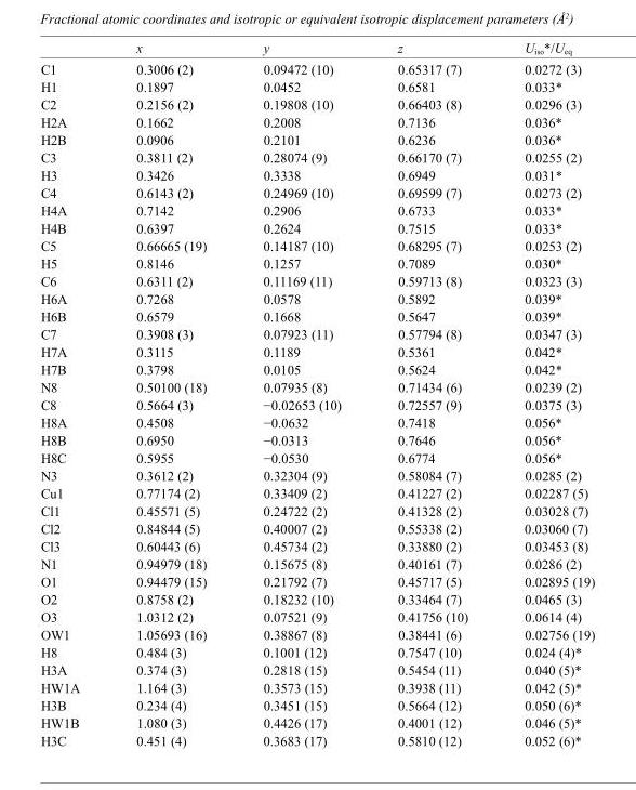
<table><thead><tr><td></td><td>x</td><td>y</td><td>z</td><td>U<sub>iso</sub>*/U<sub>eq</sub></td></tr></thead><tbody><tr><td>C1</td><td>0.3006 (2)</td><td>0.09472 (10)</td><td>0.65317 (7)</td><td>0.0272 (3)</td></tr><tr><td>H1</td><td>0.1897</td><td>0.0452</td><td>0.6581</td><td>0.033*</td></tr><tr><td>C2</td><td>0.2156 (2)</td><td>0.19808 (10)</td><td>0.66403 (8)</td><td>0.0296 (3)</td></tr><tr><td>H2A</td><td>0.1662</td><td>0.2008</td><td>0.7136</td><td>0.036*</td></tr><tr><td>H2B</td><td>0.0906</td><td>0.2101</td><td>0.6236</td><td>0.036*</td></tr><tr><td>C3</td><td>0.3811 (2)</td><td>0.28074 (9)</td><td>0.66170 (7)</td><td>0.0255 (2)</td></tr><tr><td>H3</td><td>0.3426</td><td>0.3338</td><td>0.6949</td><td>0.031*</td></tr><tr><td>C4</td><td>0.6143 (2)</td><td>0.24969 (10)</td><td>0.69599 (7)</td><td>0.0273 (2)</td></tr><tr><td>H4A</td><td>0.7142</td><td>0.2906</td><td>0.6733</td><td>0.033*</td></tr><tr><td>H4B</td><td>0.6397</td><td>0.2624</td><td>0.7515</td><td>0.033*</td></tr><tr><td>C5</td><td>0.66665 (19)</td><td>0.14187 (10)</td><td>0.68295 (7)</td><td>0.0253 (2)</td></tr><tr><td>H5</td><td>0.8146</td><td>0.1257</td><td>0.7089</td><td>0.030*</td></tr><tr><td>C6</td><td>0.6311 (2)</td><td>0.11169 (11)</td><td>0.59713 (8)</td><td>0.0323 (3)</td></tr><tr><td>H6A</td><td>0.7268</td><td>0.0578</td><td>0.5892</td><td>0.039*</td></tr><tr><td>H6B</td><td>0.6579</td><td>0.1668</td><td>0.5647</td><td>0.039*</td></tr><tr><td>C7</td><td>0.3908 (3)</td><td>0.07923 (11)</td><td>0.57794 (8)</td><td>0.0347 (3)</td></tr><tr><td>H7A</td><td>0.3115</td><td>0.1189</td><td>0.5361</td><td>0.042*</td></tr><tr><td>H7B</td><td>0.3798</td><td>0.0105</td><td>0.5624</td><td>0.042*</td></tr><tr><td>N8</td><td>0.50100 (18)</td><td>0.07935 (8)</td><td>0.71434 (6)</td><td>0.0239 (2)</td></tr><tr><td>C8</td><td>0.5664 (3)</td><td>−0.02653 (10)</td><td>0.72557 (9)</td><td>0.0375 (3)</td></tr><tr><td>H8A</td><td>0.4508</td><td>−0.0632</td><td>0.7418</td><td>0.056*</td></tr><tr><td>H8B</td><td>0.6950</td><td>−0.0313</td><td>0.7646</td><td>0.056*</td></tr><tr><td>H8C</td><td>0.5955</td><td>−0.0530</td><td>0.6774</td><td>0.056*</td></tr><tr><td>N3</td><td>0.3612 (2)</td><td>0.32304 (9)</td><td>0.58084 (7)</td><td>0.0285 (2)</td></tr><tr><td>Cu1</td><td>0.77174 (2)</td><td>0.33409 (2)</td><td>0.41227 (2)</td><td>0.02287 (5)</td></tr><tr><td>Cl1</td><td>0.45571 (5)</td><td>0.24722 (2)</td><td>0.41328 (2)</td><td>0.03028 (7)</td></tr><tr><td>Cl2</td><td>0.84844 (5)</td><td>0.40007 (2)</td><td>0.55338 (2)</td><td>0.03060 (7)</td></tr><tr><td>Cl3</td><td>0.60443 (6)</td><td>0.45734 (2)</td><td>0.33880 (2)</td><td>0.03453 (8)</td></tr><tr><td>N1</td><td>0.94979 (18)</td><td>0.15675 (8)</td><td>0.40161 (7)</td><td>0.0286 (2)</td></tr><tr><td>O1</td><td>0.94479 (15)</td><td>0.21792 (7)</td><td>0.45717 (5)</td><td>0.02895 (19)</td></tr><tr><td>O2</td><td>0.8758 (2)</td><td>0.18232 (10)</td><td>0.33464 (7)</td><td>0.0465 (3)</td></tr><tr><td>O3</td><td>1.0312 (2)</td><td>0.07521 (9)</td><td>0.41756 (10)</td><td>0.0614 (4)</td></tr><tr><td>OW1</td><td>1.05693 (16)</td><td>0.38867 (8)</td><td>0.38441 (6)</td><td>0.02756 (19)</td></tr><tr><td>H8</td><td>0.484 (3)</td><td>0.1001 (12)</td><td>0.7547 (10)</td><td>0.024 (4)*</td></tr><tr><td>H3A</td><td>0.374 (3)</td><td>0.2818 (15)</td><td>0.5454 (11)</td><td>0.040 (5)*</td></tr><tr><td>HW1A</td><td>1.164 (3)</td><td>0.3573 (15)</td><td>0.3938 (11)</td><td>0.042 (5)*</td></tr><tr><td>H3B</td><td>0.234 (4)</td><td>0.3451 (15)</td><td>0.5664 (12)</td><td>0.050 (6)*</td></tr><tr><td>HW1B</td><td>1.080 (3)</td><td>0.4426 (17)</td><td>0.4001 (12)</td><td>0.046 (5)*</td></tr><tr><td>H3C</td><td>0.451 (4)</td><td>0.3683 (17)</td><td>0.5810 (12)</td><td>0.052 (6)*</td></tr></tbody></table>